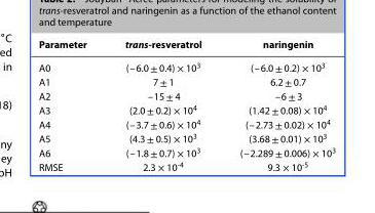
<table><thead><tr><td>Parameter</td><td>trans-resveratrol</td><td>naringenin</td></tr></thead><tbody><tr><td>A0</td><td>(–6.0 ± 0.4) × 10<sup>3</sup></td><td>(–6.0 ± 0.2) × 10<sup>3</sup></td></tr><tr><td>A1</td><td>7 ± 1</td><td>6.2 ± 0.7</td></tr><tr><td>A2</td><td>–15 ± 4</td><td>–6 ± 3</td></tr><tr><td>A3</td><td>(2.0 ± 0.2) × 10<sup>4</sup></td><td>(1.42 ± 0.08) × 10<sup>4</sup></td></tr><tr><td>A4</td><td>(–3.7 ± 0.6) × 10<sup>4</sup></td><td>(–2.73 ± 0.02) × 10<sup>4</sup></td></tr><tr><td>A5</td><td>(4.3 ± 0.5) × 10<sup>3</sup></td><td>(3.68 ± 0.01) × 10<sup>3</sup></td></tr><tr><td>A6</td><td>(–1.8 ± 0.7) × 10<sup>3</sup></td><td>(–2.289 ± 0.006) × 10<sup>3</sup></td></tr><tr><td>RMSE</td><td>2.3 × 10<sup>-4</sup></td><td>9.3 × 10<sup>-5</sup></td></tr></tbody></table>